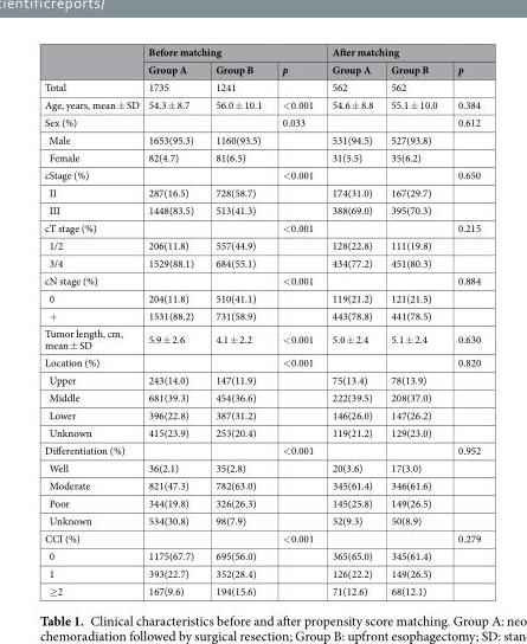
<table><thead><tr><td rowspan="2"></td><td colspan="3">Before matching</td><td colspan="3">After matching</td></tr><tr><td>Group A</td><td>Group B</td><td>p</td><td>Group A</td><td>Group B</td><td>p</td></tr></thead><tbody><tr><td>Total</td><td>1735</td><td>1241</td><td></td><td>562</td><td>562</td><td></td></tr><tr><td>Age, years, mean ± SD</td><td>54.3 ± 8.7</td><td>56.0 ± 10.1</td><td>&lt;0.001</td><td>54.6 ± 8.8</td><td>55.1 ± 10.0</td><td>0.384</td></tr><tr><td>Sex (%)</td><td></td><td></td><td>0.033</td><td></td><td></td><td>0.612</td></tr><tr><td>Male</td><td>1653(95.3)</td><td>1160(93.5)</td><td></td><td>531(94.5)</td><td>527(93.8)</td><td></td></tr><tr><td>Female</td><td>82(4.7)</td><td>81(6.5)</td><td></td><td>31(5.5)</td><td>35(6.2)</td><td></td></tr><tr><td>cStage (%)</td><td></td><td></td><td>&lt;0.001</td><td></td><td></td><td>0.650</td></tr><tr><td>II</td><td>287(16.5)</td><td>728(58.7)</td><td></td><td>174(31.0)</td><td>167(29.7)</td><td></td></tr><tr><td>III</td><td>1448(83.5)</td><td>513(41.3)</td><td></td><td>388(69.0)</td><td>395(70.3)</td><td></td></tr><tr><td>cT stage (%)</td><td></td><td></td><td>&lt;0.001</td><td></td><td></td><td>0.215</td></tr><tr><td>1/2</td><td>206(11.8)</td><td>557(44.9)</td><td></td><td>128(22.8)</td><td>111(19.8)</td><td></td></tr><tr><td>3/4</td><td>1529(88.1)</td><td>684(55.1)</td><td></td><td>434(77.2)</td><td>451(80.3)</td><td></td></tr><tr><td>cN stage (%)</td><td></td><td></td><td>&lt;0.001</td><td></td><td></td><td>0.884</td></tr><tr><td>0</td><td>204(11.8)</td><td>510(41.1)</td><td></td><td>119(21.2)</td><td>121(21.5)</td><td></td></tr><tr><td>+</td><td>1531(88.2)</td><td>731(58.9)</td><td></td><td>443(78.8)</td><td>441(78.5)</td><td></td></tr><tr><td>Tumor length, cm, mean ± SD</td><td>5.9 ± 2.6</td><td>4.1 ± 2.2</td><td>&lt;0.001</td><td>5.0 ± 2.4</td><td>5.1 ± 2.4</td><td>0.630</td></tr><tr><td>Location (%)</td><td></td><td></td><td>&lt;0.001</td><td></td><td></td><td>0.820</td></tr><tr><td>Upper</td><td>243(14.0)</td><td>147(11.9)</td><td></td><td>75(13.4)</td><td>78(13.9)</td><td></td></tr><tr><td>Middle</td><td>681(39.3)</td><td>454(36.6)</td><td></td><td>222(39.5)</td><td>208(37.0)</td><td></td></tr><tr><td>Lower</td><td>396(22.8)</td><td>387(31.2)</td><td></td><td>146(26.0)</td><td>147(26.2)</td><td></td></tr><tr><td>Unknown</td><td>415(23.9)</td><td>253(20.4)</td><td></td><td>119(21.2)</td><td>129(23.0)</td><td></td></tr><tr><td>Differentiation (%)</td><td></td><td></td><td>&lt;0.001</td><td></td><td></td><td>0.952</td></tr><tr><td>Well</td><td>36(2.1)</td><td>35(2.8)</td><td></td><td>20(3.6)</td><td>17(3.0)</td><td></td></tr><tr><td>Moderate</td><td>821(47.3)</td><td>782(63.0)</td><td></td><td>345(61.4)</td><td>346(61.6)</td><td></td></tr><tr><td>Poor</td><td>344(19.8)</td><td>326(26.3)</td><td></td><td>145(25.8)</td><td>149(26.5)</td><td></td></tr><tr><td>Unknown</td><td>534(30.8)</td><td>98(7.9)</td><td></td><td>52(9.3)</td><td>50(8.9)</td><td></td></tr><tr><td>CCI (%)</td><td></td><td></td><td>&lt;0.001</td><td></td><td></td><td>0.279</td></tr><tr><td>0</td><td>1175(67.7)</td><td>695(56.0)</td><td></td><td>365(65.0)</td><td>345(61.4)</td><td></td></tr><tr><td>1</td><td>393(22.7)</td><td>352(28.4)</td><td></td><td>126(22.2)</td><td>149(26.5)</td><td></td></tr><tr><td>≥2</td><td>167(9.6)</td><td>194(15.6)</td><td></td><td>71(12.6)</td><td>68(12.1)</td><td></td></tr></tbody></table>